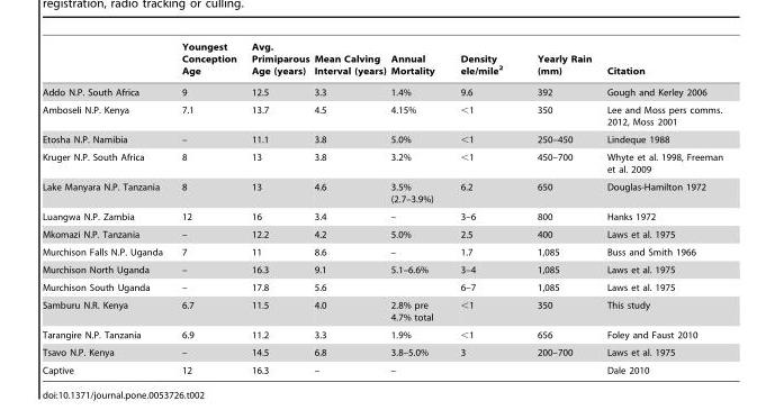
<table><thead><tr><td></td><td>Youngest Conception Age</td><td>Avg. Primiparous Age (years)</td><td>Mean Calving Interval (years)</td><td>Annual Mortality</td><td>Density ele/mile<sup>2</sup></td><td>Yearly Rain (mm)</td><td>Citation</td></tr></thead><tbody><tr><td>Addo N.P. South Africa</td><td>9</td><td>12.5</td><td>3.3</td><td>1.4%</td><td>9.6</td><td>392</td><td>Gough and Kerley 2006</td></tr><tr><td>Amboseli N.P. Kenya</td><td>7.1</td><td>13.7</td><td>4.5</td><td>4.15%</td><td>&lt;1</td><td>350</td><td>Lee and Moss pers comms. 2012, Moss 2001</td></tr><tr><td>Etosha N.P. Namibia</td><td>–</td><td>11.1</td><td>3.8</td><td>5.0%</td><td>&lt;1</td><td>250–450</td><td>Lindeque 1988</td></tr><tr><td>Kruger N.P. South Africa</td><td>8</td><td>13</td><td>3.8</td><td>3.2%</td><td>&lt;1</td><td>450–700</td><td>Whyte et al. 1998, Freeman et al. 2009</td></tr><tr><td>Lake Manyara N.P. Tanzania</td><td>8</td><td>13</td><td>4.6</td><td>3.5% (2.7–3.9%)</td><td>6.2</td><td>650</td><td>Douglas-Hamilton 1972</td></tr><tr><td>Luangwa N.P. Zambia</td><td>12</td><td>16</td><td>3.4</td><td>–</td><td>3–6</td><td>800</td><td>Hanks 1972</td></tr><tr><td>Mkomazi N.P. Tanzania</td><td>–</td><td>12.2</td><td>4.2</td><td>5.0%</td><td>2.5</td><td>400</td><td>Laws et al. 1975</td></tr><tr><td>Murchison Falls N.P. Uganda</td><td>7</td><td>11</td><td>8.6</td><td>–</td><td>1.7</td><td>1,085</td><td>Buss and Smith 1966</td></tr><tr><td>Murchison North Uganda</td><td>–</td><td>16.3</td><td>9.1</td><td>5.1–6.6%</td><td>3–4</td><td>1,085</td><td>Laws et al. 1975</td></tr><tr><td>Murchison South Uganda</td><td>–</td><td>17.8</td><td>5.6</td><td></td><td>6–7</td><td>1,085</td><td>Laws et al. 1975</td></tr><tr><td>Samburu N.R. Kenya</td><td>6.7</td><td>11.5</td><td>4.0</td><td>2.8% pre 4.7% total</td><td>&lt;1</td><td>350</td><td>This study</td></tr><tr><td>Tarangire N.P. Tanzania</td><td>6.9</td><td>11.2</td><td>3.3</td><td>1.9%</td><td>&lt;1</td><td>656</td><td>Foley and Faust 2010</td></tr><tr><td>Tsavo N.P. Kenya</td><td>–</td><td>14.5</td><td>6.8</td><td>3.8–5.0%</td><td>3</td><td>200–700</td><td>Laws et al. 1975</td></tr><tr><td>Captive</td><td>12</td><td>16.3</td><td>–</td><td>–</td><td></td><td></td><td>Dale 2010</td></tr></tbody></table>